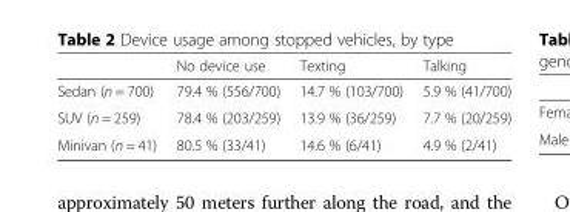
<table><thead><tr><td></td><td>No device use</td><td>Texting</td><td>Talking</td></tr></thead><tbody><tr><td>Sedan (n = 700)</td><td>79.4 % (556/700)</td><td>14.7 % (103/700)</td><td>5.9 % (41/700)</td></tr><tr><td>SUV (n = 259)</td><td>78.4 % (203/259)</td><td>13.9 % (36/259)</td><td>7.7 % (20/259)</td></tr><tr><td>Minivan (n = 41)</td><td>80.5 % (33/41)</td><td>14.6 % (6/41)</td><td>4.9 % (2/41)</td></tr></tbody></table>